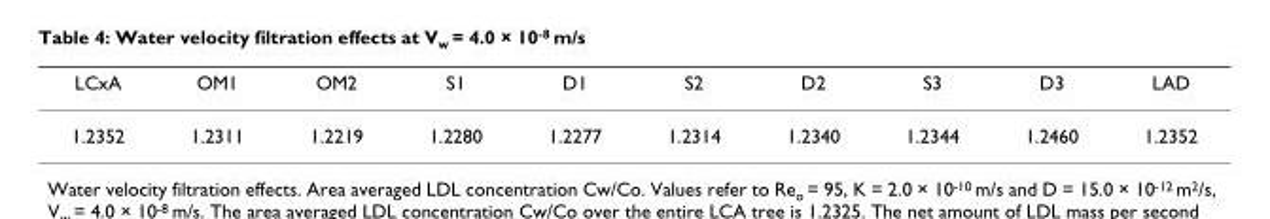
<table><thead><tr><td>LCxA</td><td>OM1</td><td>OM2</td><td>S1</td><td>D1</td><td>S2</td><td>D2</td><td>S3</td><td>D3</td><td>LAD</td></tr></thead><tbody><tr><td>1.2352</td><td>1.2311</td><td>1.2219</td><td>1.2280</td><td>1.2277</td><td>1.2314</td><td>1.2340</td><td>1.2344</td><td>1.2460</td><td>1.2352</td></tr></tbody></table>